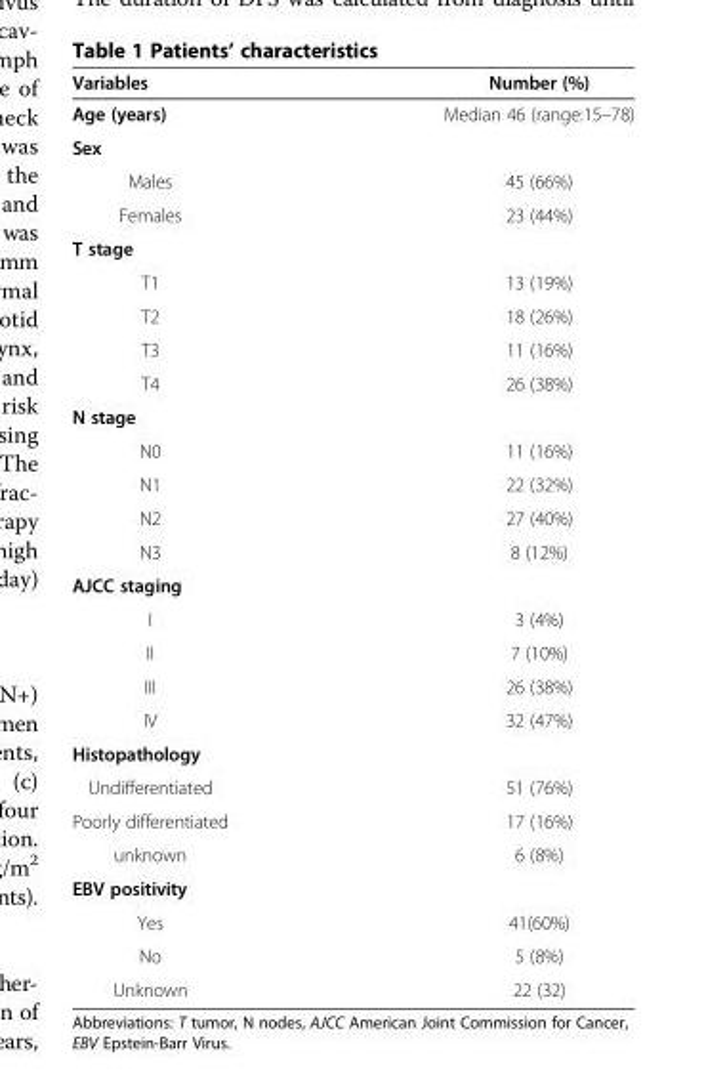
<table><thead><tr><td>Variables</td><td>Number (%)</td></tr></thead><tbody><tr><td>Age (years)</td><td>Median 46 (range:15–78)</td></tr><tr><td colspan="2">Sex</td></tr><tr><td>Males</td><td>45 (66%)</td></tr><tr><td>Females</td><td>23 (44%)</td></tr><tr><td colspan="2">T stage</td></tr><tr><td>T1</td><td>13 (19%)</td></tr><tr><td>T2</td><td>18 (26%)</td></tr><tr><td>T3</td><td>11 (16%)</td></tr><tr><td>T4</td><td>26 (38%)</td></tr><tr><td colspan="2">N stage</td></tr><tr><td>N0</td><td>11 (16%)</td></tr><tr><td>N1</td><td>22 (32%)</td></tr><tr><td>N2</td><td>27 (40%)</td></tr><tr><td>N3</td><td>8 (12%)</td></tr><tr><td colspan="2">AJCC staging</td></tr><tr><td>I</td><td>3 (4%)</td></tr><tr><td>II</td><td>7 (10%)</td></tr><tr><td>III</td><td>26 (38%)</td></tr><tr><td>IV</td><td>32 (47%)</td></tr><tr><td colspan="2">Histopathology</td></tr><tr><td>Undifferentiated</td><td>51 (76%)</td></tr><tr><td>Poorly differentiated</td><td>17 (16%)</td></tr><tr><td>unknown</td><td>6 (8%)</td></tr><tr><td colspan="2">EBV positivity</td></tr><tr><td>Yes</td><td>41(60%)</td></tr><tr><td>No</td><td>5 (8%)</td></tr><tr><td>Unknown</td><td>22 (32)</td></tr></tbody></table>